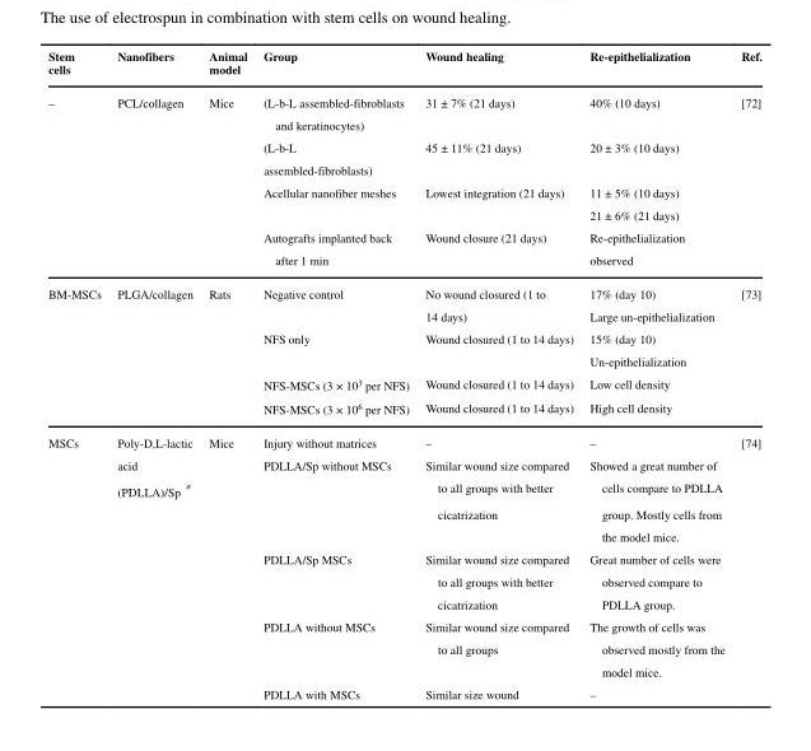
<table><thead><tr><td>Stem cells</td><td>Nanofibers</td><td>Animal model</td><td>Group</td><td>Wound healing</td><td>Re-epithelialization</td><td>Ref.</td></tr></thead><tbody><tr><td rowspan="8">–</td><td>PCL/collagen</td><td>Mice</td><td>(L-b-L assembled-fibroblasts</td><td>31 ± 7% (21 days)</td><td>40% (10 days)</td><td>[72]</td></tr><tr><td></td><td></td><td>and keratinocytes)</td><td></td><td></td><td></td></tr><tr><td></td><td></td><td>(L-b-L</td><td>45 ± 11% (21 days)</td><td>20 ± 3% (10 days)</td><td></td></tr><tr><td></td><td></td><td>assembled-fibroblasts)</td><td></td><td></td><td></td></tr><tr><td></td><td></td><td>Acellular nanofiber meshes</td><td>Lowest integration (21 days)</td><td>11 ± 5% (10 days)</td><td></td></tr><tr><td></td><td></td><td></td><td></td><td>21 ± 6% (21 days)</td><td></td></tr><tr><td></td><td></td><td>Autografts implanted back</td><td>Wound closure (21 days)</td><td>Re-epithelialization</td><td></td></tr><tr><td></td><td></td><td>after 1 min</td><td></td><td>observed</td><td></td></tr><tr><td rowspan="6">BM-MSCs</td><td>PLGA/collagen</td><td>Rats</td><td>Negative control</td><td>No wound closured (1 to</td><td>17% (day 10)</td><td>[73]</td></tr><tr><td></td><td></td><td></td><td>14 days)</td><td>Large un-epithelialization</td><td></td></tr><tr><td></td><td></td><td>NFS only</td><td>Wound closured (1 to 14 days)</td><td>15% (day 10)</td><td></td></tr><tr><td></td><td></td><td></td><td></td><td>Un-epithelialization</td><td></td></tr><tr><td></td><td></td><td>NFS-MSCs (3 × 10<sup>3</sup> per NFS)</td><td>Wound closured (1 to 14 days)</td><td>Low cell density</td><td></td></tr><tr><td></td><td></td><td>NFS-MSCs (3 × 10<sup>6</sup> per NFS)</td><td>Wound closured (1 to 14 days)</td><td>High cell density</td><td></td></tr><tr><td rowspan="12">MSCs</td><td>Poly-D,L-lactic</td><td>Mice</td><td>Injury without matrices</td><td>–</td><td>–</td><td>[74]</td></tr><tr><td>acid</td><td></td><td>PDLLA/Sp without MSCs</td><td>Similar wound size compared</td><td>Showed a great number of</td><td></td></tr><tr><td>(PDLLA)/Sp *</td><td></td><td></td><td>to all groups with better</td><td>cells compare to PDLLA</td><td></td></tr><tr><td></td><td></td><td></td><td>cicatrization</td><td>group. Mostly cells from</td><td></td></tr><tr><td></td><td></td><td></td><td></td><td>the model mice.</td><td></td></tr><tr><td></td><td></td><td>PDLLA/Sp MSCs</td><td>Similar wound size compared</td><td>Great number of cells were</td><td></td></tr><tr><td></td><td></td><td></td><td>to all groups with better</td><td>observed compare to</td><td></td></tr><tr><td></td><td></td><td></td><td>cicatrization</td><td>PDLLA group.</td><td></td></tr><tr><td></td><td></td><td>PDLLA without MSCs</td><td>Similar wound size compared</td><td>The growth of cells was</td><td></td></tr><tr><td></td><td></td><td></td><td>to all groups</td><td>observed mostly from the</td><td></td></tr><tr><td></td><td></td><td></td><td></td><td>model mice.</td><td></td></tr><tr><td></td><td></td><td>PDLLA with MSCs</td><td>Similar size wound</td><td>–</td><td></td></tr></tbody></table>